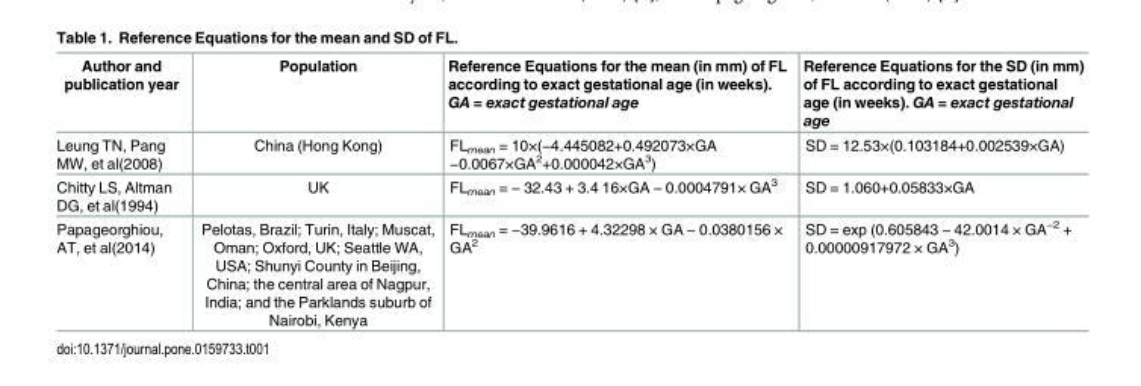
<table><thead><tr><td>Author and publication year</td><td>Population</td><td>Reference Equations for the mean (in mm) of FL according to exact gestational age (in weeks). GA = exact gestational age</td><td>Reference Equations for the SD (in mm) of FL according to exact gestational age (in weeks). GA = exact gestational age</td></tr></thead><tbody><tr><td>Leung TN, Pang MW, et al(2008)</td><td>China (Hong Kong)</td><td>FL<sub>mean</sub> = 10×(−4.445082+0.492073×GA −0.0067×GA<sup>2</sup>+0.000042×GA<sup>3</sup>)</td><td>SD = 12.53×(0.103184+0.002539×GA)</td></tr><tr><td>Chitty LS, Altman DG, et al(1994)</td><td>UK</td><td>FL<sub>mean</sub> = − 32.43 + 3.4 16×GA − 0.0004791× GA<sup>3</sup></td><td>SD = 1.060+0.05833×GA</td></tr><tr><td>Papageorghiou, AT, et al(2014)</td><td>Pelotas, Brazil; Turin, Italy; Muscat, Oman; Oxford, UK; Seattle WA, USA; Shunyi County in Beijing, China; the central area of Nagpur, India; and the Parklands suburb of Nairobi, Kenya</td><td>FL<sub>mean</sub> = −39.9616 + 4.32298 × GA − 0.0380156 × GA<sup>2</sup></td><td>SD = exp (0.605843 − 42.0014 × GA<sup>−2</sup> + 0.00000917972 × GA<sup>3</sup>)</td></tr></tbody></table>